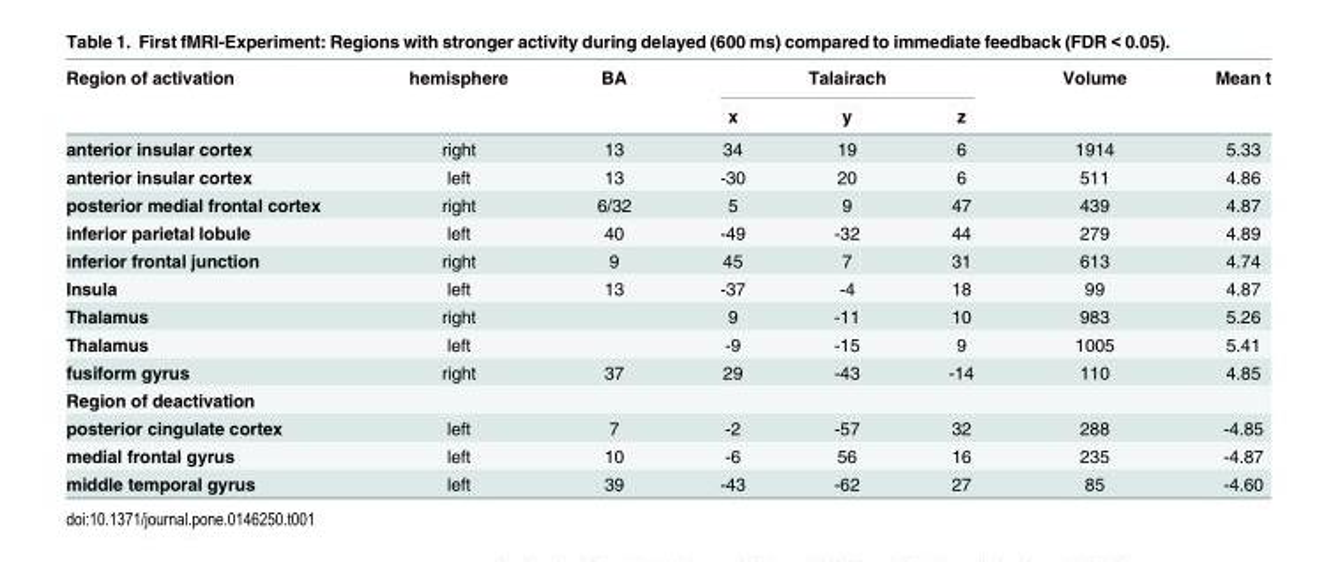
<table><thead><tr><td rowspan="2">Region of activation</td><td rowspan="2">hemisphere</td><td rowspan="2">BA</td><td colspan="3">Talairach</td><td rowspan="2">Volume</td><td rowspan="2">Mean t</td></tr><tr><td>x</td><td>y</td><td>z</td></tr></thead><tbody><tr><td>anterior insular cortex</td><td>right</td><td>13</td><td>34</td><td>19</td><td>6</td><td>1914</td><td>5.33</td></tr><tr><td>anterior insular cortex</td><td>left</td><td>13</td><td>-30</td><td>20</td><td>6</td><td>511</td><td>4.86</td></tr><tr><td>posterior medial frontal cortex</td><td>right</td><td>6/32</td><td>5</td><td>9</td><td>47</td><td>439</td><td>4.87</td></tr><tr><td>inferior parietal lobule</td><td>left</td><td>40</td><td>-49</td><td>-32</td><td>44</td><td>279</td><td>4.89</td></tr><tr><td>inferior frontal junction</td><td>right</td><td>9</td><td>45</td><td>7</td><td>31</td><td>613</td><td>4.74</td></tr><tr><td>Insula</td><td>left</td><td>13</td><td>-37</td><td>-4</td><td>18</td><td>99</td><td>4.87</td></tr><tr><td>Thalamus</td><td>right</td><td></td><td>9</td><td>-11</td><td>10</td><td>983</td><td>5.26</td></tr><tr><td>Thalamus</td><td>left</td><td></td><td>-9</td><td>-15</td><td>9</td><td>1005</td><td>5.41</td></tr><tr><td>fusiform gyrus</td><td>right</td><td>37</td><td>29</td><td>-43</td><td>-14</td><td>110</td><td>4.85</td></tr><tr><td colspan="8">Region of deactivation</td></tr><tr><td>posterior cingulate cortex</td><td>left</td><td>7</td><td>-2</td><td>-57</td><td>32</td><td>288</td><td>-4.85</td></tr><tr><td>medial frontal gyrus</td><td>left</td><td>10</td><td>-6</td><td>56</td><td>16</td><td>235</td><td>-4.87</td></tr><tr><td>middle temporal gyrus</td><td>left</td><td>39</td><td>-43</td><td>-62</td><td>27</td><td>85</td><td>-4.60</td></tr></tbody></table>